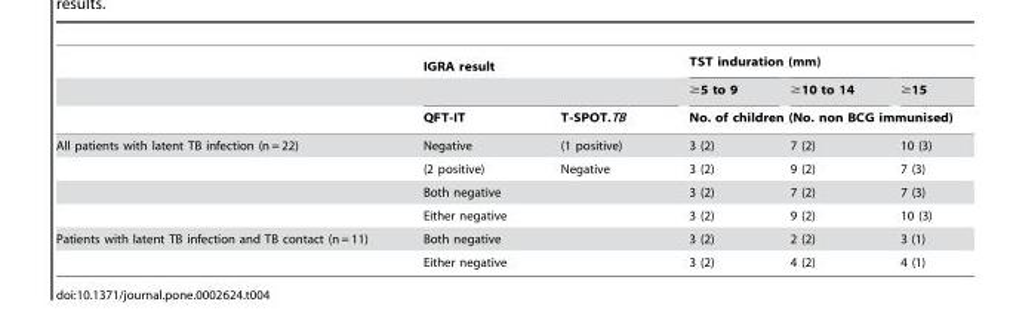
<table><thead><tr><td rowspan="3"></td><td colspan="2">IGRA result</td><td colspan="3">TST induration (mm)</td></tr><tr><td rowspan="2">QFT-IT</td><td rowspan="2">T-SPOT.TB</td><td>≥5 to 9</td><td>≥10 to 14</td><td>≥15</td></tr><tr><td colspan="3">No. of children (No. non BCG immunised)</td></tr></thead><tbody><tr><td rowspan="4">All patients with latent TB infection (n = 22)</td><td>Negative</td><td>(1 positive)</td><td>3 (2)</td><td>7 (2)</td><td>10 (3)</td></tr><tr><td>(2 positive)</td><td>Negative</td><td>3 (2)</td><td>9 (2)</td><td>7 (3)</td></tr><tr><td colspan="2">Both negative</td><td>3 (2)</td><td>7 (2)</td><td>7 (3)</td></tr><tr><td colspan="2">Either negative</td><td>3 (2)</td><td>9 (2)</td><td>10 (3)</td></tr><tr><td rowspan="2">Patients with latent TB infection and TB contact (n = 11)</td><td colspan="2">Both negative</td><td>3 (2)</td><td>2 (2)</td><td>3 (1)</td></tr><tr><td colspan="2">Either negative</td><td>3 (2)</td><td>4 (2)</td><td>4 (1)</td></tr></tbody></table>